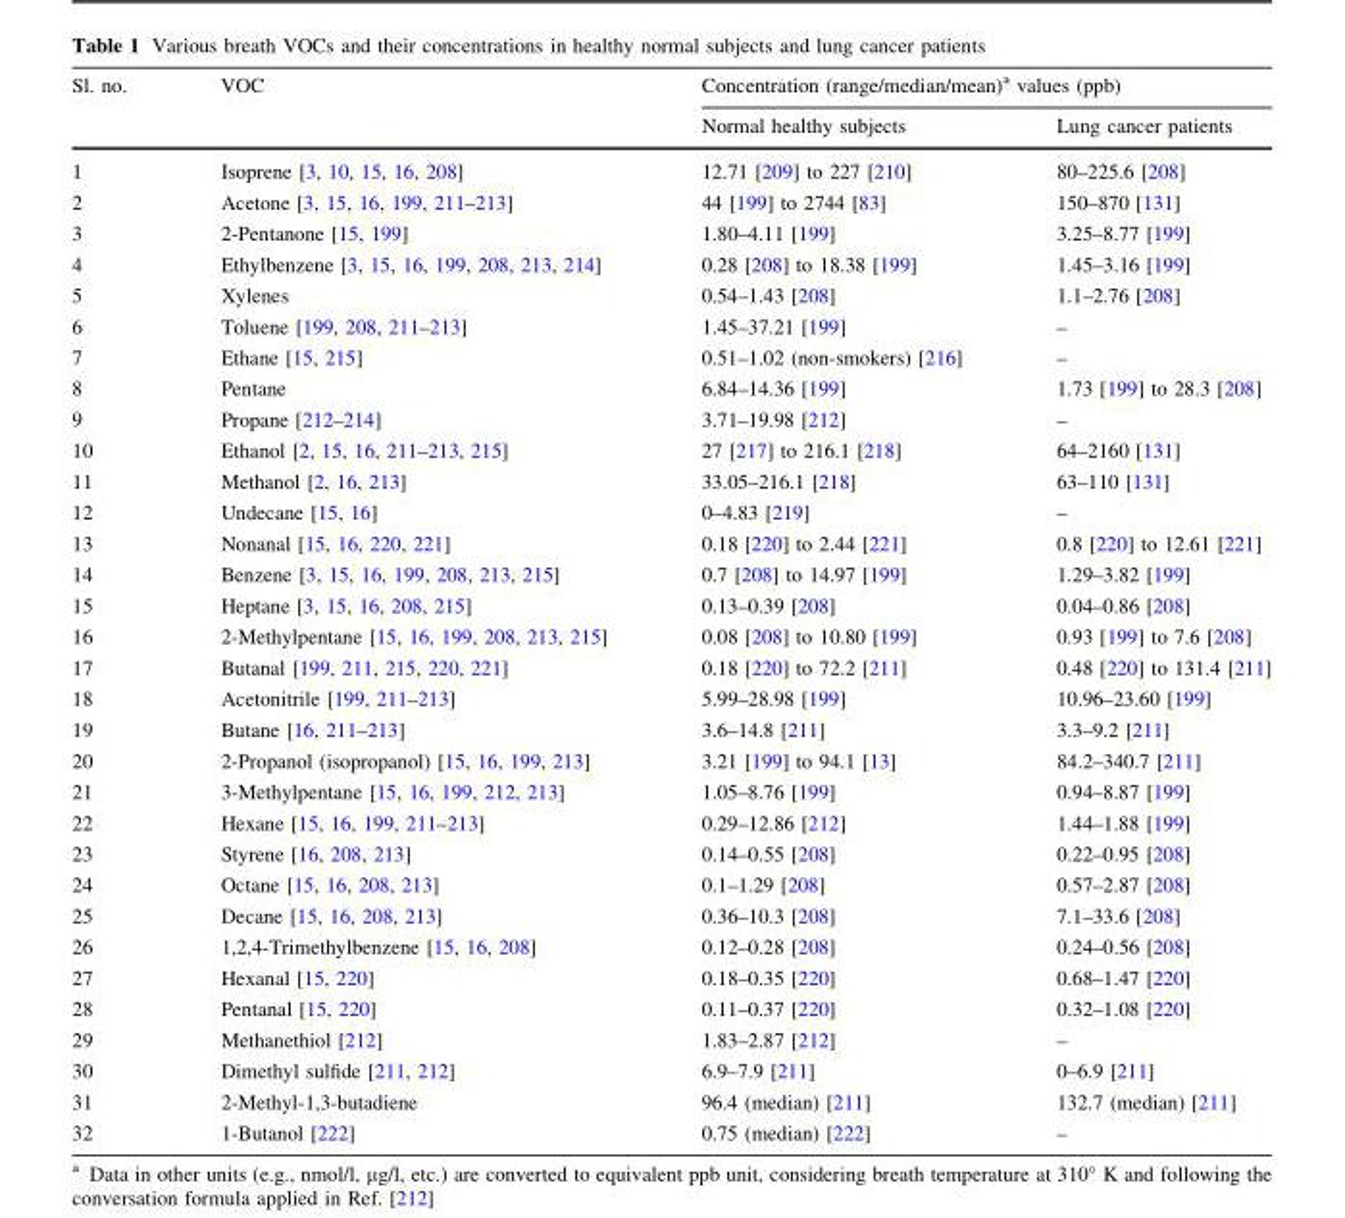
<table><thead><tr><td rowspan="2">Sl. no.</td><td rowspan="2">VOC</td><td colspan="2">Concentration (range/median/mean)<sup>a</sup> values (ppb)</td></tr><tr><td>Normal healthy subjects</td><td>Lung cancer patients</td></tr></thead><tbody><tr><td>1</td><td>Isoprene [3, 10, 15, 16, 208]</td><td>12.71 [209] to 227 [210]</td><td>80–225.6 [208]</td></tr><tr><td>2</td><td>Acetone [3, 15, 16, 199, 211–213]</td><td>44 [199] to 2744 [83]</td><td>150–870 [131]</td></tr><tr><td>3</td><td>2-Pentanone [15, 199]</td><td>1.80–4.11 [199]</td><td>3.25–8.77 [199]</td></tr><tr><td>4</td><td>Ethylbenzene [3, 15, 16, 199, 208, 213, 214]</td><td>0.28 [208] to 18.38 [199]</td><td>1.45–3.16 [199]</td></tr><tr><td>5</td><td>Xylenes</td><td>0.54–1.43 [208]</td><td>1.1–2.76 [208]</td></tr><tr><td>6</td><td>Toluene [199, 208, 211–213]</td><td>1.45–37.21 [199]</td><td>–</td></tr><tr><td>7</td><td>Ethane [15, 215]</td><td>0.51–1.02 (non-smokers) [216]</td><td>–</td></tr><tr><td>8</td><td>Pentane</td><td>6.84–14.36 [199]</td><td>1.73 [199] to 28.3 [208]</td></tr><tr><td>9</td><td>Propane [212–214]</td><td>3.71–19.98 [212]</td><td>–</td></tr><tr><td>10</td><td>Ethanol [2, 15, 16, 211–213, 215]</td><td>27 [217] to 216.1 [218]</td><td>64–2160 [131]</td></tr><tr><td>11</td><td>Methanol [2, 16, 213]</td><td>33.05–216.1 [218]</td><td>63–110 [131]</td></tr><tr><td>12</td><td>Undecane [15, 16]</td><td>0–4.83 [219]</td><td>–</td></tr><tr><td>13</td><td>Nonanal [15, 16, 220, 221]</td><td>0.18 [220] to 2.44 [221]</td><td>0.8 [220] to 12.61 [221]</td></tr><tr><td>14</td><td>Benzene [3, 15, 16, 199, 208, 213, 215]</td><td>0.7 [208] to 14.97 [199]</td><td>1.29–3.82 [199]</td></tr><tr><td>15</td><td>Heptane [3, 15, 16, 208, 215]</td><td>0.13–0.39 [208]</td><td>0.04–0.86 [208]</td></tr><tr><td>16</td><td>2-Methylpentane [15, 16, 199, 208, 213, 215]</td><td>0.08 [208] to 10.80 [199]</td><td>0.93 [199] to 7.6 [208]</td></tr><tr><td>17</td><td>Butanal [199, 211, 215, 220, 221]</td><td>0.18 [220] to 72.2 [211]</td><td>0.48 [220] to 131.4 [211]</td></tr><tr><td>18</td><td>Acetonitrile [199, 211–213]</td><td>5.99–28.98 [199]</td><td>10.96–23.60 [199]</td></tr><tr><td>19</td><td>Butane [16, 211–213]</td><td>3.6–14.8 [211]</td><td>3.3–9.2 [211]</td></tr><tr><td>20</td><td>2-Propanol (isopropanol) [15, 16, 199, 213]</td><td>3.21 [199] to 94.1 [13]</td><td>84.2–340.7 [211]</td></tr><tr><td>21</td><td>3-Methylpentane [15, 16, 199, 212, 213]</td><td>1.05–8.76 [199]</td><td>0.94–8.87 [199]</td></tr><tr><td>22</td><td>Hexane [15, 16, 199, 211–213]</td><td>0.29–12.86 [212]</td><td>1.44–1.88 [199]</td></tr><tr><td>23</td><td>Styrene [16, 208, 213]</td><td>0.14–0.55 [208]</td><td>0.22–0.95 [208]</td></tr><tr><td>24</td><td>Octane [15, 16, 208, 213]</td><td>0.1–1.29 [208]</td><td>0.57–2.87 [208]</td></tr><tr><td>25</td><td>Decane [15, 16, 208, 213]</td><td>0.36–10.3 [208]</td><td>7.1–33.6 [208]</td></tr><tr><td>26</td><td>1,2,4-Trimethylbenzene [15, 16, 208]</td><td>0.12–0.28 [208]</td><td>0.24–0.56 [208]</td></tr><tr><td>27</td><td>Hexanal [15, 220]</td><td>0.18–0.35 [220]</td><td>0.68–1.47 [220]</td></tr><tr><td>28</td><td>Pentanal [15, 220]</td><td>0.11–0.37 [220]</td><td>0.32–1.08 [220]</td></tr><tr><td>29</td><td>Methanethiol [212]</td><td>1.83–2.87 [212]</td><td>–</td></tr><tr><td>30</td><td>Dimethyl sulfide [211, 212]</td><td>6.9–7.9 [211]</td><td>0–6.9 [211]</td></tr><tr><td>31</td><td>2-Methyl-1,3-butadiene</td><td>96.4 (median) [211]</td><td>132.7 (median) [211]</td></tr><tr><td>32</td><td>1-Butanol [222]</td><td>0.75 (median) [222]</td><td>–</td></tr></tbody></table>